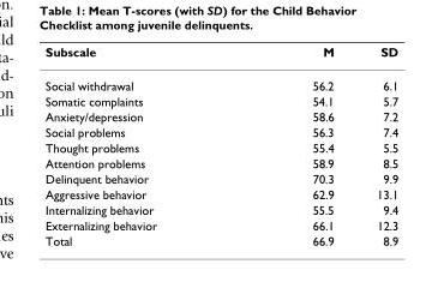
<table><thead><tr><td>Subscale</td><td>M</td><td>SD</td></tr></thead><tbody><tr><td>Social withdrawal</td><td>56.2</td><td>6.1</td></tr><tr><td>Somatic complaints</td><td>54.1</td><td>5.7</td></tr><tr><td>Anxiety/depression</td><td>58.6</td><td>7.2</td></tr><tr><td>Social problems</td><td>56.3</td><td>7.4</td></tr><tr><td>Thought problems</td><td>55.4</td><td>5.5</td></tr><tr><td>Attention problems</td><td>58.9</td><td>8.5</td></tr><tr><td>Delinquent behavior</td><td>70.3</td><td>9.9</td></tr><tr><td>Aggressive behavior</td><td>62.9</td><td>13.1</td></tr><tr><td>Internalizing behavior</td><td>55.5</td><td>9.4</td></tr><tr><td>Externalizing behavior</td><td>66.1</td><td>12.3</td></tr><tr><td>Total</td><td>66.9</td><td>8.9</td></tr></tbody></table>